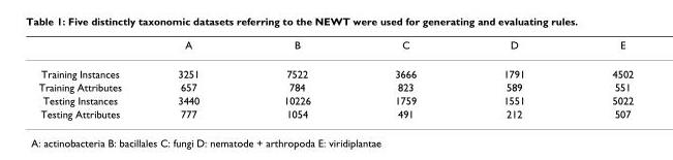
<table><thead><tr><td></td><td>A</td><td>B</td><td>C</td><td>D</td><td>E</td></tr></thead><tbody><tr><td>Training Instances</td><td>3251</td><td>7522</td><td>3666</td><td>1791</td><td>4502</td></tr><tr><td>Training Attributes</td><td>657</td><td>784</td><td>823</td><td>589</td><td>551</td></tr><tr><td>Testing Instances</td><td>3440</td><td>10226</td><td>1759</td><td>1551</td><td>5022</td></tr><tr><td>Testing Attributes</td><td>777</td><td>1054</td><td>491</td><td>212</td><td>507</td></tr></tbody></table>